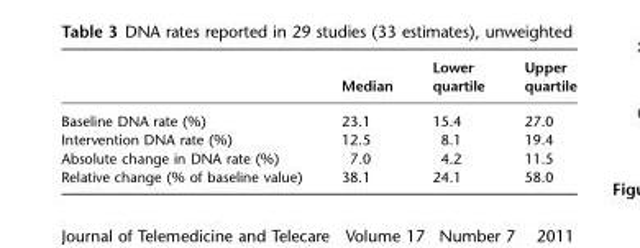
<table><thead><tr><td></td><td>Median</td><td>Lower quartile</td><td>Upper quartile</td></tr></thead><tbody><tr><td>Baseline DNA rate (%)</td><td>23.1</td><td>15.4</td><td>27.0</td></tr><tr><td>Intervention DNA rate (%)</td><td>12.5</td><td>8.1</td><td>19.4</td></tr><tr><td>Absolute change in DNA rate (%)</td><td>7.0</td><td>4.2</td><td>11.5</td></tr><tr><td>Relative change (% of baseline value)</td><td>38.1</td><td>24.1</td><td>58.0</td></tr></tbody></table>